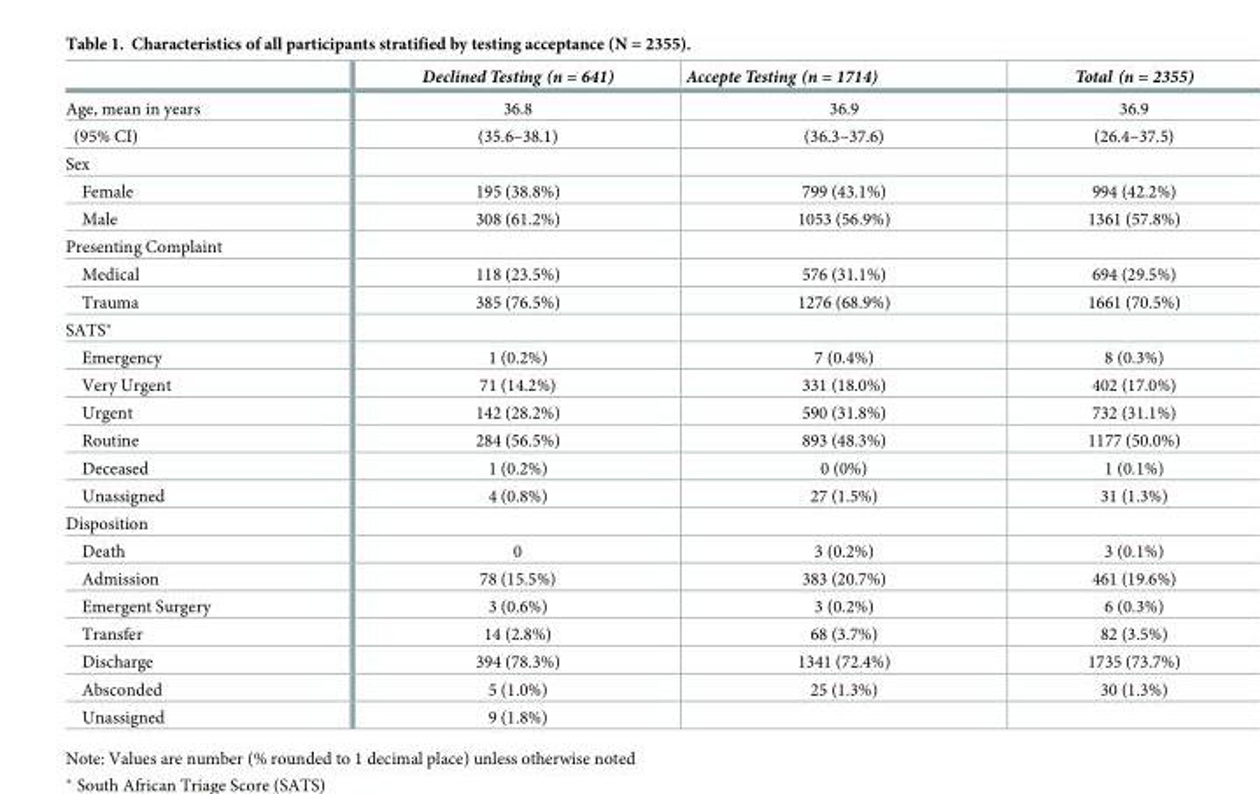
<table><thead><tr><td></td><td>Declined Testing (n = 641)</td><td>Accepte Testing (n = 1714)</td><td>Total (n = 2355)</td></tr></thead><tbody><tr><td>Age, mean in years</td><td>36.8</td><td>36.9</td><td>36.9</td></tr><tr><td>(95% CI)</td><td>(35.6–38.1)</td><td>(36.3–37.6)</td><td>(26.4–37.5)</td></tr><tr><td colspan="4">Sex</td></tr><tr><td>Female</td><td>195 (38.8%)</td><td>799 (43.1%)</td><td>994 (42.2%)</td></tr><tr><td>Male</td><td>308 (61.2%)</td><td>1053 (56.9%)</td><td>1361 (57.8%)</td></tr><tr><td colspan="4">Presenting Complaint</td></tr><tr><td>Medical</td><td>118 (23.5%)</td><td>576 (31.1%)</td><td>694 (29.5%)</td></tr><tr><td>Trauma</td><td>385 (76.5%)</td><td>1276 (68.9%)</td><td>1661 (70.5%)</td></tr><tr><td colspan="4">SATS*</td></tr><tr><td>Emergency</td><td>1 (0.2%)</td><td>7 (0.4%)</td><td>8 (0.3%)</td></tr><tr><td>Very Urgent</td><td>71 (14.2%)</td><td>331 (18.0%)</td><td>402 (17.0%)</td></tr><tr><td>Urgent</td><td>142 (28.2%)</td><td>590 (31.8%)</td><td>732 (31.1%)</td></tr><tr><td>Routine</td><td>284 (56.5%)</td><td>893 (48.3%)</td><td>1177 (50.0%)</td></tr><tr><td>Deceased</td><td>1 (0.2%)</td><td>0 (0%)</td><td>1 (0.1%)</td></tr><tr><td>Unassigned</td><td>4 (0.8%)</td><td>27 (1.5%)</td><td>31 (1.3%)</td></tr><tr><td colspan="4">Disposition</td></tr><tr><td>Death</td><td>0</td><td>3 (0.2%)</td><td>3 (0.1%)</td></tr><tr><td>Admission</td><td>78 (15.5%)</td><td>383 (20.7%)</td><td>461 (19.6%)</td></tr><tr><td>Emergent Surgery</td><td>3 (0.6%)</td><td>3 (0.2%)</td><td>6 (0.3%)</td></tr><tr><td>Transfer</td><td>14 (2.8%)</td><td>68 (3.7%)</td><td>82 (3.5%)</td></tr><tr><td>Discharge</td><td>394 (78.3%)</td><td>1341 (72.4%)</td><td>1735 (73.7%)</td></tr><tr><td>Absconded</td><td>5 (1.0%)</td><td>25 (1.3%)</td><td>30 (1.3%)</td></tr><tr><td>Unassigned</td><td>9 (1.8%)</td><td></td><td></td></tr></tbody></table>